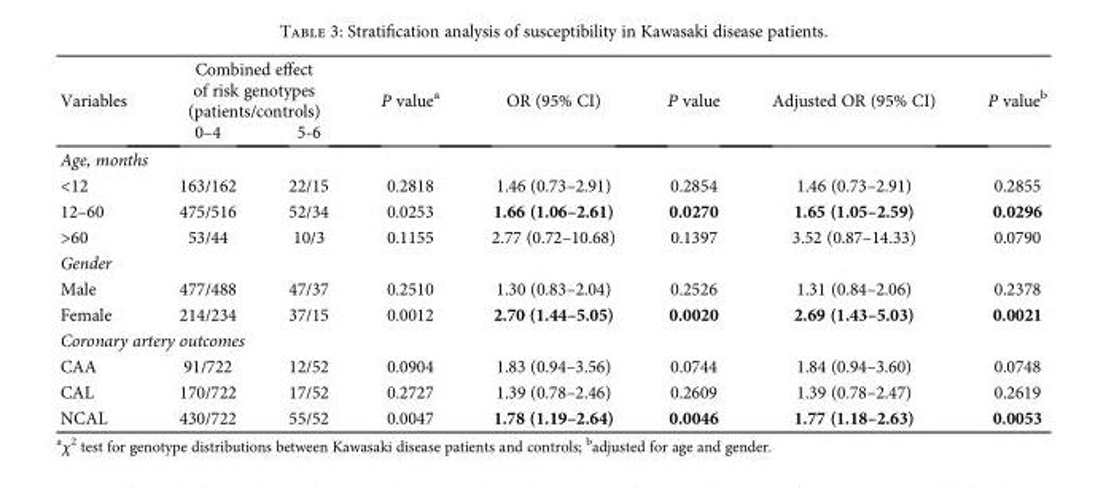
<table><thead><tr><td rowspan="2">Variables</td><td colspan="2">Combined effect of risk genotypes (patients/controls)</td><td rowspan="2">P value<sup>a</sup></td><td rowspan="2">OR (95% CI)</td><td rowspan="2">P value</td><td rowspan="2">Adjusted OR (95% CI)</td><td rowspan="2">P value<sup>b</sup></td></tr><tr><td>0–4</td><td>5-6</td></tr></thead><tbody><tr><td colspan="8">Age, months</td></tr><tr><td>&lt;12</td><td>163/162</td><td>22/15</td><td>0.2818</td><td>1.46 (0.73–2.91)</td><td>0.2854</td><td>1.46 (0.73–2.91)</td><td>0.2855</td></tr><tr><td>12–60</td><td>475/516</td><td>52/34</td><td>0.0253</td><td>1.66 (1.06–2.61)</td><td>0.0270</td><td>1.65 (1.05–2.59)</td><td>0.0296</td></tr><tr><td>&gt;60</td><td>53/44</td><td>10/3</td><td>0.1155</td><td>2.77 (0.72–10.68)</td><td>0.1397</td><td>3.52 (0.87–14.33)</td><td>0.0790</td></tr><tr><td colspan="8">Gender</td></tr><tr><td>Male</td><td>477/488</td><td>47/37</td><td>0.2510</td><td>1.30 (0.83–2.04)</td><td>0.2526</td><td>1.31 (0.84–2.06)</td><td>0.2378</td></tr><tr><td>Female</td><td>214/234</td><td>37/15</td><td>0.0012</td><td>2.70 (1.44–5.05)</td><td>0.0020</td><td>2.69 (1.43–5.03)</td><td>0.0021</td></tr><tr><td colspan="8">Coronary artery outcomes</td></tr><tr><td>CAA</td><td>91/722</td><td>12/52</td><td>0.0904</td><td>1.83 (0.94–3.56)</td><td>0.0744</td><td>1.84 (0.94–3.60)</td><td>0.0748</td></tr><tr><td>CAL</td><td>170/722</td><td>17/52</td><td>0.2727</td><td>1.39 (0.78–2.46)</td><td>0.2609</td><td>1.39 (0.78–2.47)</td><td>0.2619</td></tr><tr><td>NCAL</td><td>430/722</td><td>55/52</td><td>0.0047</td><td>1.78 (1.19–2.64)</td><td>0.0046</td><td>1.77 (1.18–2.63)</td><td>0.0053</td></tr></tbody></table>